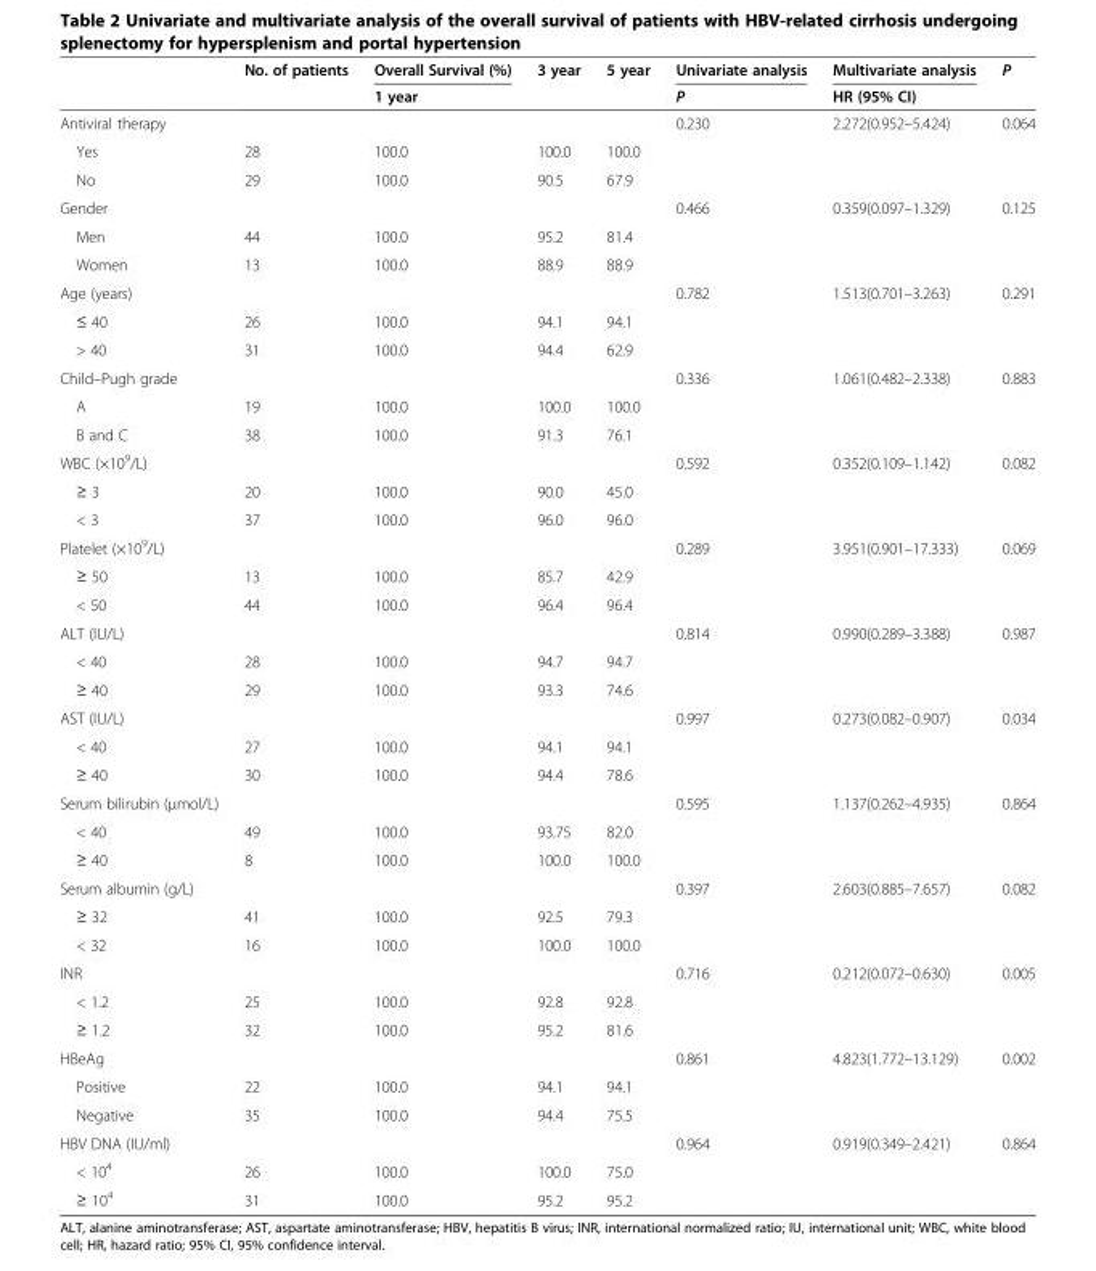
<table><thead><tr><td rowspan="2"></td><td rowspan="2">No. of patients</td><td rowspan="2">Overall Survival (%) 1 year</td><td rowspan="2">3 year</td><td rowspan="2">5 year</td><td rowspan="2">Univariate analysis P</td><td rowspan="2">Multivariate analysis HR (95% CI)</td><td rowspan="2">P</td></tr><tr></tr></thead><tbody><tr><td>Antiviral therapy</td><td></td><td></td><td></td><td></td><td>0.230</td><td>2.272(0.952–5.424)</td><td>0.064</td></tr><tr><td>Yes</td><td>28</td><td>100.0</td><td>100.0</td><td>100.0</td><td></td><td></td><td></td></tr><tr><td>No</td><td>29</td><td>100.0</td><td>90.5</td><td>67.9</td><td></td><td></td><td></td></tr><tr><td>Gender</td><td></td><td></td><td></td><td></td><td>0.466</td><td>0.359(0.097–1.329)</td><td>0.125</td></tr><tr><td>Men</td><td>44</td><td>100.0</td><td>95.2</td><td>81.4</td><td></td><td></td><td></td></tr><tr><td>Women</td><td>13</td><td>100.0</td><td>88.9</td><td>88.9</td><td></td><td></td><td></td></tr><tr><td>Age (years)</td><td></td><td></td><td></td><td></td><td>0.782</td><td>1.513(0.701–3.263)</td><td>0.291</td></tr><tr><td>≤ 40</td><td>26</td><td>100.0</td><td>94.1</td><td>94.1</td><td></td><td></td><td></td></tr><tr><td>&gt; 40</td><td>31</td><td>100.0</td><td>94.4</td><td>62.9</td><td></td><td></td><td></td></tr><tr><td>Child–Pugh grade</td><td></td><td></td><td></td><td></td><td>0.336</td><td>1.061(0.482–2.338)</td><td>0.883</td></tr><tr><td>A</td><td>19</td><td>100.0</td><td>100.0</td><td>100.0</td><td></td><td></td><td></td></tr><tr><td>B and C</td><td>38</td><td>100.0</td><td>91.3</td><td>76.1</td><td></td><td></td><td></td></tr><tr><td>WBC (×10<sup>9</sup>/L)</td><td></td><td></td><td></td><td></td><td>0.592</td><td>0.352(0.109–1.142)</td><td>0.082</td></tr><tr><td>≥ 3</td><td>20</td><td>100.0</td><td>90.0</td><td>45.0</td><td></td><td></td><td></td></tr><tr><td>&lt; 3</td><td>37</td><td>100.0</td><td>96.0</td><td>96.0</td><td></td><td></td><td></td></tr><tr><td>Platelet (×10<sup>9</sup>/L)</td><td></td><td></td><td></td><td></td><td>0.289</td><td>3.951(0.901–17.333)</td><td>0.069</td></tr><tr><td>≥ 50</td><td>13</td><td>100.0</td><td>85.7</td><td>42.9</td><td></td><td></td><td></td></tr><tr><td>&lt; 50</td><td>44</td><td>100.0</td><td>96.4</td><td>96.4</td><td></td><td></td><td></td></tr><tr><td>ALT (IU/L)</td><td></td><td></td><td></td><td></td><td>0.814</td><td>0.990(0.289–3.388)</td><td>0.987</td></tr><tr><td>&lt; 40</td><td>28</td><td>100.0</td><td>94.7</td><td>94.7</td><td></td><td></td><td></td></tr><tr><td>≥ 40</td><td>29</td><td>100.0</td><td>93.3</td><td>74.6</td><td></td><td></td><td></td></tr><tr><td>AST (IU/L)</td><td></td><td></td><td></td><td></td><td>0.997</td><td>0.273(0.082–0.907)</td><td>0.034</td></tr><tr><td>&lt; 40</td><td>27</td><td>100.0</td><td>94.1</td><td>94.1</td><td></td><td></td><td></td></tr><tr><td>≥ 40</td><td>30</td><td>100.0</td><td>94.4</td><td>78.6</td><td></td><td></td><td></td></tr><tr><td>Serum bilirubin (μmol/L)</td><td></td><td></td><td></td><td></td><td>0.595</td><td>1.137(0.262–4.935)</td><td>0.864</td></tr><tr><td>&lt; 40</td><td>49</td><td>100.0</td><td>93.75</td><td>82.0</td><td></td><td></td><td></td></tr><tr><td>≥ 40</td><td>8</td><td>100.0</td><td>100.0</td><td>100.0</td><td></td><td></td><td></td></tr><tr><td>Serum albumin (g/L)</td><td></td><td></td><td></td><td></td><td>0.397</td><td>2.603(0.885–7.657)</td><td>0.082</td></tr><tr><td>≥ 32</td><td>41</td><td>100.0</td><td>92.5</td><td>79.3</td><td></td><td></td><td></td></tr><tr><td>&lt; 32</td><td>16</td><td>100.0</td><td>100.0</td><td>100.0</td><td></td><td></td><td></td></tr><tr><td>INR</td><td></td><td></td><td></td><td></td><td>0.716</td><td>0.212(0.072–0.630)</td><td>0.005</td></tr><tr><td>&lt; 1.2</td><td>25</td><td>100.0</td><td>92.8</td><td>92.8</td><td></td><td></td><td></td></tr><tr><td>≥ 1.2</td><td>32</td><td>100.0</td><td>95.2</td><td>81.6</td><td></td><td></td><td></td></tr><tr><td>HBeAg</td><td></td><td></td><td></td><td></td><td>0.861</td><td>4.823(1.772–13.129)</td><td>0.002</td></tr><tr><td>Positive</td><td>22</td><td>100.0</td><td>94.1</td><td>94.1</td><td></td><td></td><td></td></tr><tr><td>Negative</td><td>35</td><td>100.0</td><td>94.4</td><td>75.5</td><td></td><td></td><td></td></tr><tr><td>HBV DNA (IU/ml)</td><td></td><td></td><td></td><td></td><td>0.964</td><td>0.919(0.349–2.421)</td><td>0.864</td></tr><tr><td>&lt; 10<sup>4</sup></td><td>26</td><td>100.0</td><td>100.0</td><td>75.0</td><td></td><td></td><td></td></tr><tr><td>≥ 10<sup>4</sup></td><td>31</td><td>100.0</td><td>95.2</td><td>95.2</td><td></td><td></td><td></td></tr></tbody></table>